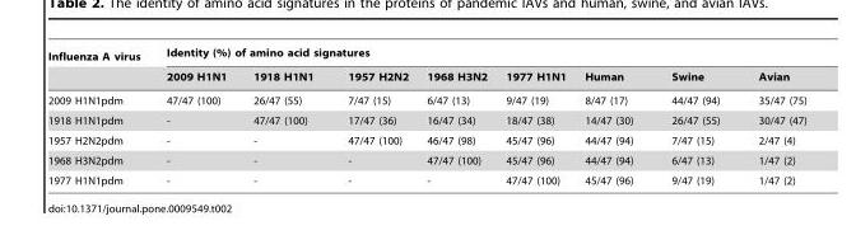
<table><thead><tr><td rowspan="2">Influenza A virus</td><td colspan="8">Identity (%) of amino acid signatures</td></tr><tr><td>2009 H1N1</td><td>1918 H1N1</td><td>1957 H2N2</td><td>1968 H3N2</td><td>1977 H1N1</td><td>Human</td><td>Swine</td><td>Avian</td></tr></thead><tbody><tr><td>2009 H1N1pdm</td><td>47/47 (100)</td><td>26/47 (55)</td><td>7/47 (15)</td><td>6/47 (13)</td><td>9/47 (19)</td><td>8/47 (17)</td><td>44/47 (94)</td><td>35/47 (75)</td></tr><tr><td>1918 H1N1pdm</td><td>-</td><td>47/47 (100)</td><td>17/47 (36)</td><td>16/47 (34)</td><td>18/47 (38)</td><td>14/47 (30)</td><td>26/47 (55)</td><td>30/47 (47)</td></tr><tr><td>1957 H2N2pdm</td><td>-</td><td>-</td><td>47/47 (100)</td><td>46/47 (98)</td><td>45/47 (96)</td><td>44/47 (94)</td><td>7/47 (15)</td><td>2/47 (4)</td></tr><tr><td>1968 H3N2pdm</td><td>-</td><td>-</td><td>-</td><td>47/47 (100)</td><td>45/47 (96)</td><td>44/47 (94)</td><td>6/47 (13)</td><td>1/47 (2)</td></tr><tr><td>1977 H1N1pdm</td><td>-</td><td>-</td><td>-</td><td>-</td><td>47/47 (100)</td><td>45/47 (96)</td><td>9/47 (19)</td><td>1/47 (2)</td></tr></tbody></table>